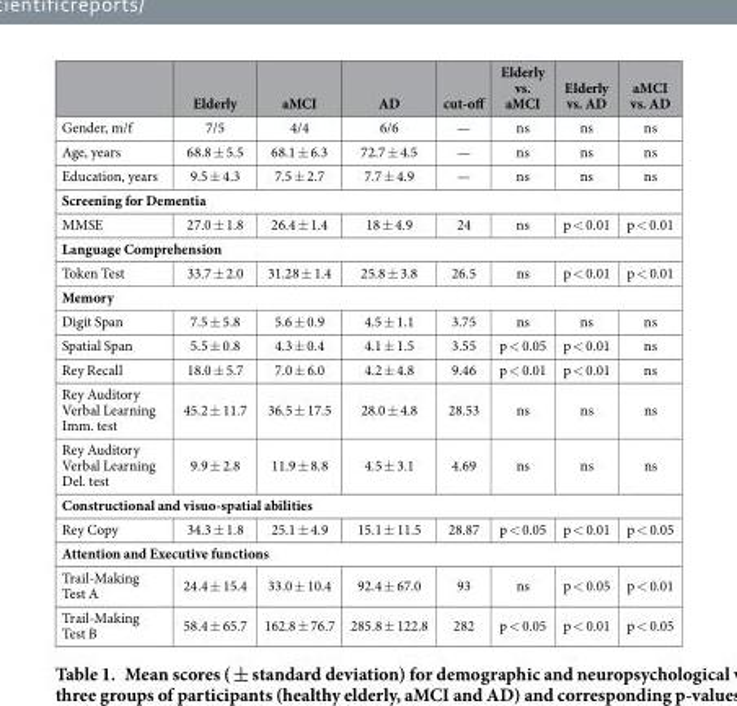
<table><thead><tr><td></td><td>Elderly</td><td>aMCI</td><td>AD</td><td>cut-off</td><td>Elderly vs. aMCI</td><td>Elderly vs. AD</td><td>aMCI vs. AD</td></tr></thead><tbody><tr><td>Gender, m/f</td><td>7/5</td><td>4/4</td><td>6/6</td><td>—</td><td>ns</td><td>ns</td><td>ns</td></tr><tr><td>Age, years</td><td>68.8 ± 5.5</td><td>68.1 ± 6.3</td><td>72.7 ± 4.5</td><td>—</td><td>ns</td><td>ns</td><td>ns</td></tr><tr><td>Education, years</td><td>9.5 ± 4.3</td><td>7.5 ± 2.7</td><td>7.7 ± 4.9</td><td>—</td><td>ns</td><td>ns</td><td>ns</td></tr><tr><td colspan="8">Screening for Dementia</td></tr><tr><td>MMSE</td><td>27.0 ± 1.8</td><td>26.4 ± 1.4</td><td>18 ± 4.9</td><td>24</td><td>ns</td><td>p &lt; 0.01</td><td>p &lt; 0.01</td></tr><tr><td colspan="8">Language Comprehension</td></tr><tr><td>Token Test</td><td>33.7 ± 2.0</td><td>31.28 ± 1.4</td><td>25.8 ± 3.8</td><td>26.5</td><td>ns</td><td>p &lt; 0.01</td><td>p &lt; 0.01</td></tr><tr><td colspan="8">Memory</td></tr><tr><td>Digit Span</td><td>7.5 ± 5.8</td><td>5.6 ± 0.9</td><td>4.5 ± 1.1</td><td>3.75</td><td>ns</td><td>ns</td><td>ns</td></tr><tr><td>Spatial Span</td><td>5.5 ± 0.8</td><td>4.3 ± 0.4</td><td>4.1 ± 1.5</td><td>3.55</td><td>p &lt; 0.05</td><td>p &lt; 0.01</td><td>ns</td></tr><tr><td>Rey Recall</td><td>18.0 ± 5.7</td><td>7.0 ± 6.0</td><td>4.2 ± 4.8</td><td>9.46</td><td>p &lt; 0.01</td><td>p &lt; 0.01</td><td>ns</td></tr><tr><td>Rey Auditory Verbal Learning Imm. test</td><td>45.2 ± 11.7</td><td>36.5 ± 17.5</td><td>28.0 ± 4.8</td><td>28.53</td><td>ns</td><td>ns</td><td>ns</td></tr><tr><td>Rey Auditory Verbal Learning Del. test</td><td>9.9 ± 2.8</td><td>11.9 ± 8.8</td><td>4.5 ± 3.1</td><td>4.69</td><td>ns</td><td>ns</td><td>ns</td></tr><tr><td colspan="8">Constructional and visuo-spatial abilities</td></tr><tr><td>Rey Copy</td><td>34.3 ± 1.8</td><td>25.1 ± 4.9</td><td>15.1 ± 11.5</td><td>28.87</td><td>p &lt; 0.05</td><td>p &lt; 0.01</td><td>p &lt; 0.05</td></tr><tr><td colspan="8">Attention and Executive functions</td></tr><tr><td>Trail-Making Test A</td><td>24.4 ± 15.4</td><td>33.0 ± 10.4</td><td>92.4 ± 67.0</td><td>93</td><td>ns</td><td>p &lt; 0.05</td><td>p &lt; 0.01</td></tr><tr><td>Trail-Making Test B</td><td>58.4 ± 65.7</td><td>162.8 ± 76.7</td><td>285.8 ± 122.8</td><td>282</td><td>p &lt; 0.05</td><td>p &lt; 0.01</td><td>p &lt; 0.05</td></tr></tbody></table>